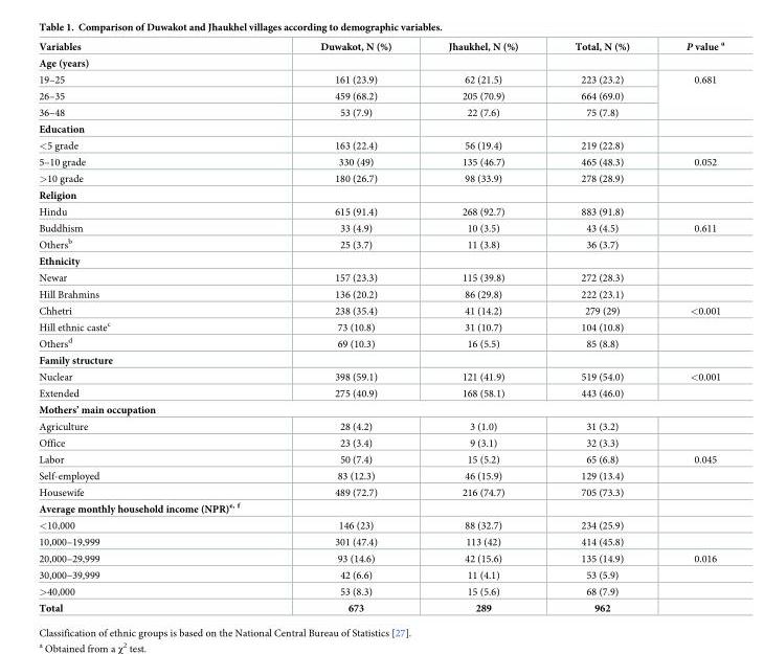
<table><thead><tr><td>Variables</td><td>Duwakot, N (%)</td><td>Jhaukhel, N (%)</td><td>Total, N (%)</td><td>P value <sup>a</sup></td></tr></thead><tbody><tr><td colspan="5">Age (years)</td></tr><tr><td>19–25</td><td>161 (23.9)</td><td>62 (21.5)</td><td>223 (23.2)</td><td rowspan="3">0.681</td></tr><tr><td>26–35</td><td>459 (68.2)</td><td>205 (70.9)</td><td>664 (69.0)</td></tr><tr><td>36–48</td><td>53 (7.9)</td><td>22 (7.6)</td><td>75 (7.8)</td></tr><tr><td colspan="5">Education</td></tr><tr><td>&lt;5 grade</td><td>163 (22.4)</td><td>56 (19.4)</td><td>219 (22.8)</td><td></td></tr><tr><td>5–10 grade</td><td>330 (49)</td><td>135 (46.7)</td><td>465 (48.3)</td><td>0.052</td></tr><tr><td>&gt;10 grade</td><td>180 (26.7)</td><td>98 (33.9)</td><td>278 (28.9)</td><td></td></tr><tr><td colspan="5">Religion</td></tr><tr><td>Hindu</td><td>615 (91.4)</td><td>268 (92.7)</td><td>883 (91.8)</td><td></td></tr><tr><td>Buddhism</td><td>33 (4.9)</td><td>10 (3.5)</td><td>43 (4.5)</td><td>0.611</td></tr><tr><td>Others<sup>b</sup></td><td>25 (3.7)</td><td>11 (3.8)</td><td>36 (3.7)</td><td></td></tr><tr><td colspan="5">Ethnicity</td></tr><tr><td>Newar</td><td>157 (23.3)</td><td>115 (39.8)</td><td>272 (28.3)</td><td></td></tr><tr><td>Hill Brahmins</td><td>136 (20.2)</td><td>86 (29.8)</td><td>222 (23.1)</td><td></td></tr><tr><td>Chhetri</td><td>238 (35.4)</td><td>41 (14.2)</td><td>279 (29)</td><td>&lt;0.001</td></tr><tr><td>Hill ethnic caste<sup>c</sup></td><td>73 (10.8)</td><td>31 (10.7)</td><td>104 (10.8)</td><td></td></tr><tr><td>Others<sup>d</sup></td><td>69 (10.3)</td><td>16 (5.5)</td><td>85 (8.8)</td><td></td></tr><tr><td colspan="5">Family structure</td></tr><tr><td>Nuclear</td><td>398 (59.1)</td><td>121 (41.9)</td><td>519 (54.0)</td><td>&lt;0.001</td></tr><tr><td>Extended</td><td>275 (40.9)</td><td>168 (58.1)</td><td>443 (46.0)</td><td></td></tr><tr><td colspan="5">Mothers’ main occupation</td></tr><tr><td>Agriculture</td><td>28 (4.2)</td><td>3 (1.0)</td><td>31 (3.2)</td><td></td></tr><tr><td>Office</td><td>23 (3.4)</td><td>9 (3.1)</td><td>32 (3.3)</td><td></td></tr><tr><td>Labor</td><td>50 (7.4)</td><td>15 (5.2)</td><td>65 (6.8)</td><td>0.045</td></tr><tr><td>Self-employed</td><td>83 (12.3)</td><td>46 (15.9)</td><td>129 (13.4)</td><td></td></tr><tr><td>Housewife</td><td>489 (72.7)</td><td>216 (74.7)</td><td>705 (73.3)</td><td></td></tr><tr><td colspan="5">Average monthly household income (NPR)<sup>e, f</sup></td></tr><tr><td>&lt;10,000</td><td>146 (23)</td><td>88 (32.7)</td><td>234 (25.9)</td><td></td></tr><tr><td>10,000–19,999</td><td>301 (47.4)</td><td>113 (42)</td><td>414 (45.8)</td><td></td></tr><tr><td>20,000–29,999</td><td>93 (14.6)</td><td>42 (15.6)</td><td>135 (14.9)</td><td>0.016</td></tr><tr><td>30,000–39,999</td><td>42 (6.6)</td><td>11 (4.1)</td><td>53 (5.9)</td><td></td></tr><tr><td>&gt;40,000</td><td>53 (8.3)</td><td>15 (5.6)</td><td>68 (7.9)</td><td></td></tr><tr><td>Total</td><td>673</td><td>289</td><td>962</td><td></td></tr></tbody></table>